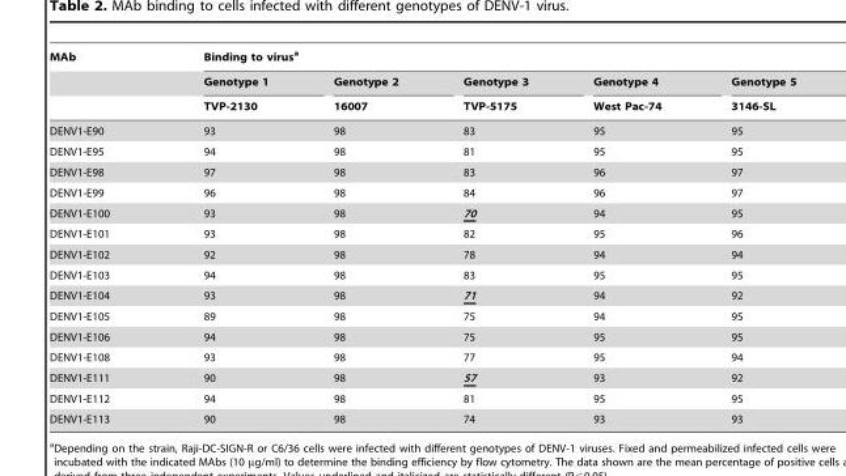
<table><thead><tr><td rowspan="3">MAb</td><td colspan="5">Binding to virus<sup>a</sup></td></tr><tr><td rowspan="2">Genotype 1 TVP-2130</td><td rowspan="2">Genotype 2 16007</td><td rowspan="2">Genotype 3 TVP-5175</td><td rowspan="2">Genotype 4 West Pac-74</td><td rowspan="2">Genotype 5 3146-SL</td></tr><tr></tr></thead><tbody><tr><td>DENV1-E90</td><td>93</td><td>98</td><td>83</td><td>95</td><td>95</td></tr><tr><td>DENV1-E95</td><td>94</td><td>98</td><td>81</td><td>95</td><td>95</td></tr><tr><td>DENV1-E98</td><td>97</td><td>98</td><td>83</td><td>96</td><td>97</td></tr><tr><td>DENV1-E99</td><td>96</td><td>98</td><td>84</td><td>96</td><td>97</td></tr><tr><td>DENV1-E100</td><td>93</td><td>98</td><td>70</td><td>94</td><td>95</td></tr><tr><td>DENV1-E101</td><td>93</td><td>98</td><td>82</td><td>95</td><td>96</td></tr><tr><td>DENV1-E102</td><td>92</td><td>98</td><td>78</td><td>94</td><td>94</td></tr><tr><td>DENV1-E103</td><td>94</td><td>98</td><td>83</td><td>95</td><td>95</td></tr><tr><td>DENV1-E104</td><td>93</td><td>98</td><td>71</td><td>94</td><td>92</td></tr><tr><td>DENV1-E105</td><td>89</td><td>98</td><td>75</td><td>94</td><td>95</td></tr><tr><td>DENV1-E106</td><td>94</td><td>98</td><td>75</td><td>95</td><td>95</td></tr><tr><td>DENV1-E108</td><td>93</td><td>98</td><td>77</td><td>95</td><td>94</td></tr><tr><td>DENV1-E111</td><td>90</td><td>98</td><td>57</td><td>93</td><td>92</td></tr><tr><td>DENV1-E112</td><td>94</td><td>98</td><td>81</td><td>95</td><td>95</td></tr><tr><td>DENV1-E113</td><td>90</td><td>98</td><td>74</td><td>93</td><td>93</td></tr></tbody></table>